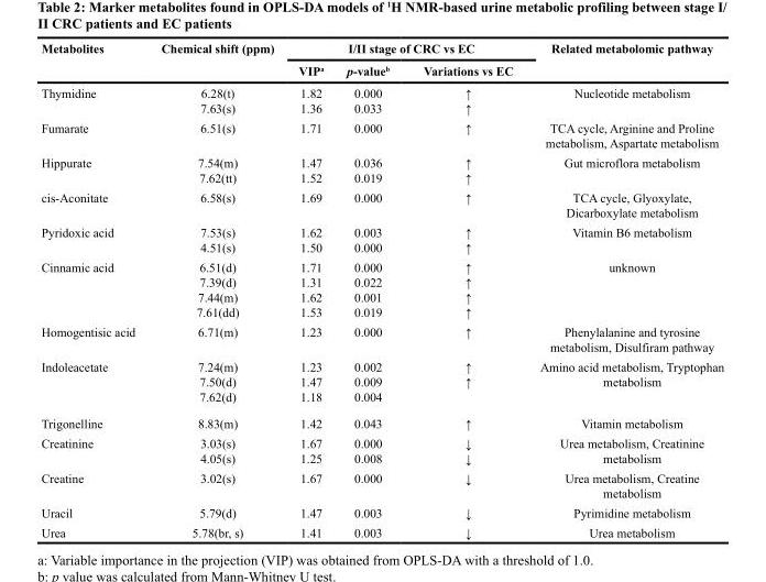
<table><thead><tr><td rowspan="2">Metabolites</td><td rowspan="2">Chemical shift (ppm)</td><td colspan="3">I/II stage of CRC vs EC</td><td rowspan="2">Related metabolomic pathway</td></tr><tr><td>VIP<sup>a</sup></td><td>p-value<sup>b</sup></td><td>Variations vs EC</td></tr></thead><tbody><tr><td>Thymidine</td><td>6.28(t) 7.63(s)</td><td>1.82 1.36</td><td>0.000 0.033</td><td>↑ ↑</td><td>Nucleotide metabolism</td></tr><tr><td>Fumarate</td><td>6.51(s)</td><td>1.71</td><td>0.000</td><td>↑</td><td>TCA cycle, Arginine and Proline metabolism, Aspartate metabolism</td></tr><tr><td>Hippurate</td><td>7.54(m) 7.62(tt)</td><td>1.47 1.52</td><td>0.036 0.019</td><td>↑ ↑</td><td>Gut microflora metabolism</td></tr><tr><td>cis-Aconitate</td><td>6.58(s)</td><td>1.69</td><td>0.000</td><td>↑</td><td>TCA cycle, Glyoxylate, Dicarboxylate metabolism</td></tr><tr><td>Pyridoxic acid</td><td>7.53(s) 4.51(s)</td><td>1.62 1.50</td><td>0.003 0.000</td><td>↑ ↑</td><td>Vitamin B6 metabolism</td></tr><tr><td>Cinnamic acid</td><td>6.51(d) 7.39(d) 7.44(m) 7.61(dd)</td><td>1.71 1.31 1.62 1.53</td><td>0.000 0.022 0.001 0.019</td><td>↑ ↑ ↑ ↑</td><td>unknown</td></tr><tr><td>Homogentisic acid</td><td>6.71(m)</td><td>1.23</td><td>0.000</td><td>↑</td><td>Phenylalanine and tyrosine metabolism, Disulfiram pathway</td></tr><tr><td>Indoleacetate</td><td>7.24(m) 7.50(d) 7.62(d)</td><td>1.23 1.47 1.18</td><td>0.002 0.009 0.004</td><td>↑ ↑</td><td>Amino acid metabolism, Tryptophan metabolism</td></tr><tr><td>Trigonelline</td><td>8.83(m)</td><td>1.42</td><td>0.043</td><td>↑</td><td>Vitamin metabolism</td></tr><tr><td>Creatinine</td><td>3.03(s) 4.05(s)</td><td>1.67 1.25</td><td>0.000 0.008</td><td>↓ ↓</td><td>Urea metabolism, Creatinine metabolism</td></tr><tr><td>Creatine</td><td>3.02(s)</td><td>1.67</td><td>0.000</td><td>↓</td><td>Urea metabolism, Creatine metabolism</td></tr><tr><td>Uracil</td><td>5.79(d)</td><td>1.47</td><td>0.003</td><td>↓</td><td>Pyrimidine metabolism</td></tr><tr><td>Urea</td><td>5.78(br, s)</td><td>1.41</td><td>0.003</td><td>↓</td><td>Urea metabolism</td></tr></tbody></table>